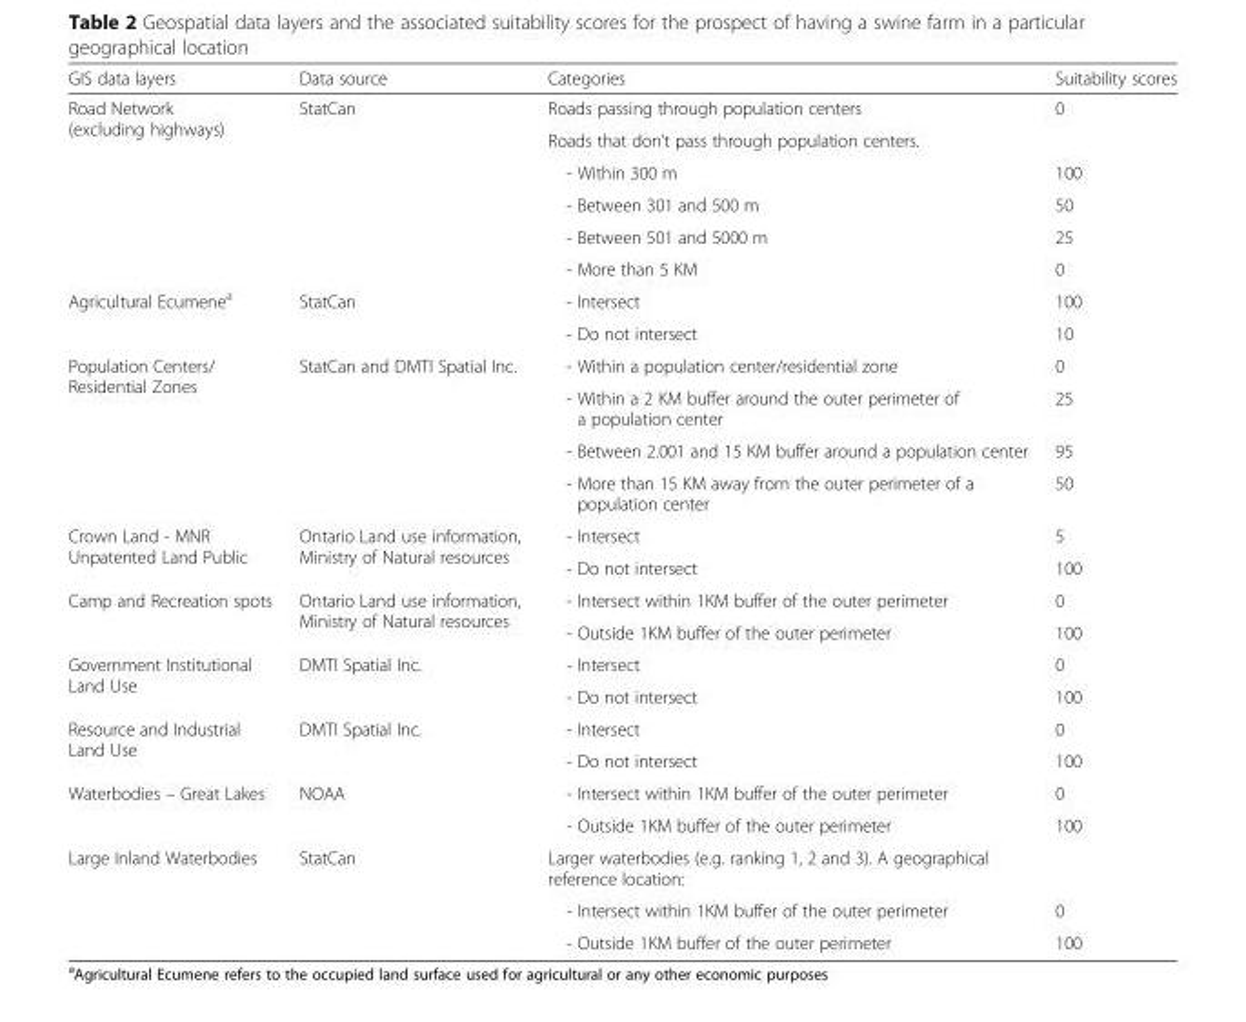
<table><thead><tr><td>GIS data layers</td><td>Data source</td><td>Categories</td><td>Suitability scores</td></tr></thead><tbody><tr><td rowspan="6">Road Network (excluding highways)</td><td rowspan="6">StatCan</td><td>Roads passing through population centers</td><td>0</td></tr><tr><td>Roads that don’t pass through population centers.</td><td></td></tr><tr><td>- Within 300 m</td><td>100</td></tr><tr><td>- Between 301 and 500 m</td><td>50</td></tr><tr><td>- Between 501 and 5000 m</td><td>25</td></tr><tr><td>- More than 5 KM</td><td>0</td></tr><tr><td rowspan="2">Agricultural Ecumene<sup>a</sup></td><td rowspan="2">StatCan</td><td>- Intersect</td><td>100</td></tr><tr><td>- Do not intersect</td><td>10</td></tr><tr><td rowspan="4">Population Centers/ Residential Zones</td><td rowspan="4">StatCan and DMTI Spatial Inc.</td><td>- Within a population center/residential zone</td><td>0</td></tr><tr><td>- Within a 2 KM buffer around the outer perimeter of a population center</td><td>25</td></tr><tr><td>- Between 2.001 and 15 KM buffer around a population center</td><td>95</td></tr><tr><td>- More than 15 KM away from the outer perimeter of a population center</td><td>50</td></tr><tr><td rowspan="2">Crown Land - MNR Unpatented Land Public</td><td rowspan="2">Ontario Land use information, Ministry of Natural resources</td><td>- Intersect</td><td>5</td></tr><tr><td>- Do not intersect</td><td>100</td></tr><tr><td rowspan="2">Camp and Recreation spots</td><td rowspan="2">Ontario Land use information, Ministry of Natural resources</td><td>- Intersect within 1KM buffer of the outer perimeter</td><td>0</td></tr><tr><td>- Outside 1KM buffer of the outer perimeter</td><td>100</td></tr><tr><td rowspan="2">Government Institutional Land Use</td><td rowspan="2">DMTI Spatial Inc.</td><td>- Intersect</td><td>0</td></tr><tr><td>- Do not intersect</td><td>100</td></tr><tr><td rowspan="2">Resource and Industrial Land Use</td><td rowspan="2">DMTI Spatial Inc.</td><td>- Intersect</td><td>0</td></tr><tr><td>- Do not intersect</td><td>100</td></tr><tr><td rowspan="2">Waterbodies – Great Lakes</td><td rowspan="2">NOAA</td><td>- Intersect within 1KM buffer of the outer perimeter</td><td>0</td></tr><tr><td>- Outside 1KM buffer of the outer perimeter</td><td>100</td></tr><tr><td rowspan="3">Large Inland Waterbodies</td><td rowspan="3">StatCan</td><td>Larger waterbodies (e.g. ranking 1, 2 and 3). A geographical reference location:</td><td></td></tr><tr><td>- Intersect within 1KM buffer of the outer perimeter</td><td>0</td></tr><tr><td>- Outside 1KM buffer of the outer perimeter</td><td>100</td></tr></tbody></table>